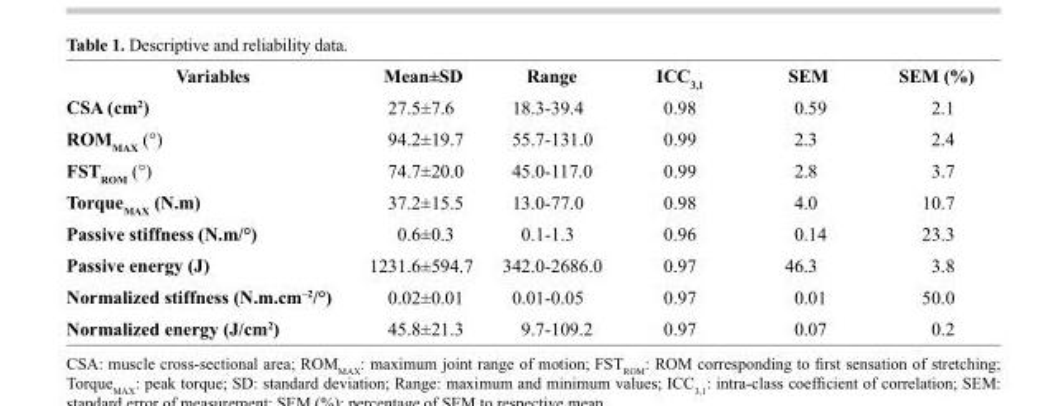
<table><thead><tr><td>Variables</td><td>Mean±SD</td><td>Range</td><td>ICC<sub>3,1</sub></td><td>SEM</td><td>SEM (%)</td></tr></thead><tbody><tr><td>CSA (cm<sup>2</sup>)</td><td>27.5±7.6</td><td>18.3-39.4</td><td>0.98</td><td>0.59</td><td>2.1</td></tr><tr><td>ROM<sub>MAX</sub> (°)</td><td>94.2±19.7</td><td>55.7-131.0</td><td>0.99</td><td>2.3</td><td>2.4</td></tr><tr><td>FST<sub>ROM</sub> (°)</td><td>74.7±20.0</td><td>45.0-117.0</td><td>0.99</td><td>2.8</td><td>3.7</td></tr><tr><td>Torque<sub>MAX</sub> (N.m)</td><td>37.2±15.5</td><td>13.0-77.0</td><td>0.98</td><td>4.0</td><td>10.7</td></tr><tr><td>Passive stiffness (N.m/°)</td><td>0.6±0.3</td><td>0.1-1.3</td><td>0.96</td><td>0.14</td><td>23.3</td></tr><tr><td>Passive energy (J)</td><td>1231.6±594.7</td><td>342.0-2686.0</td><td>0.97</td><td>46.3</td><td>3.8</td></tr><tr><td>Normalized stiffness (N.m.cm<sup>–2</sup>/°)</td><td>0.02±0.01</td><td>0.01-0.05</td><td>0.97</td><td>0.01</td><td>50.0</td></tr><tr><td>Normalized energy (J/cm<sup>2</sup>)</td><td>45.8±21.3</td><td>9.7-109.2</td><td>0.97</td><td>0.07</td><td>0.2</td></tr></tbody></table>